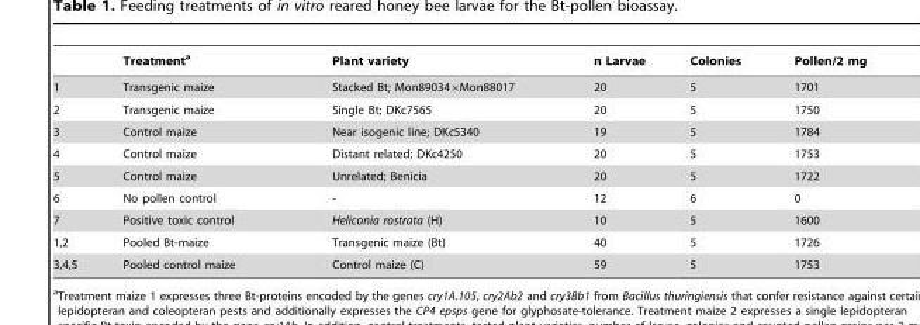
<table><thead><tr><td></td><td>Treatment<sup>a</sup></td><td>Plant variety</td><td>n Larvae</td><td>Colonies</td><td>Pollen/2 mg</td></tr></thead><tbody><tr><td>1</td><td>Transgenic maize</td><td>Stacked Bt; Mon89034×Mon88017</td><td>20</td><td>5</td><td>1701</td></tr><tr><td>2</td><td>Transgenic maize</td><td>Single Bt; DKc7565</td><td>20</td><td>5</td><td>1750</td></tr><tr><td>3</td><td>Control maize</td><td>Near isogenic line; DKc5340</td><td>19</td><td>5</td><td>1784</td></tr><tr><td>4</td><td>Control maize</td><td>Distant related; DKc4250</td><td>20</td><td>5</td><td>1753</td></tr><tr><td>5</td><td>Control maize</td><td>Unrelated; Benicia</td><td>20</td><td>5</td><td>1722</td></tr><tr><td>6</td><td>No pollen control</td><td>-</td><td>12</td><td>6</td><td>0</td></tr><tr><td>7</td><td>Positive toxic control</td><td>Heliconia rostrata (H)</td><td>10</td><td>5</td><td>1600</td></tr><tr><td>1,2</td><td>Pooled Bt-maize</td><td>Transgenic maize (Bt)</td><td>40</td><td>5</td><td>1726</td></tr><tr><td>3,4,5</td><td>Pooled control maize</td><td>Control maize (C)</td><td>59</td><td>5</td><td>1753</td></tr></tbody></table>